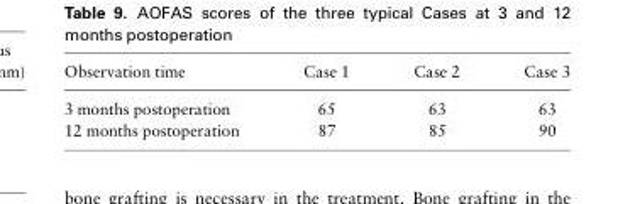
<table><thead><tr><td>Observation time</td><td>Case 1</td><td>Case 2</td><td>Case 3</td></tr></thead><tbody><tr><td>3 months postoperation</td><td>65</td><td>63</td><td>63</td></tr><tr><td>12 months postoperation</td><td>87</td><td>85</td><td>90</td></tr></tbody></table>